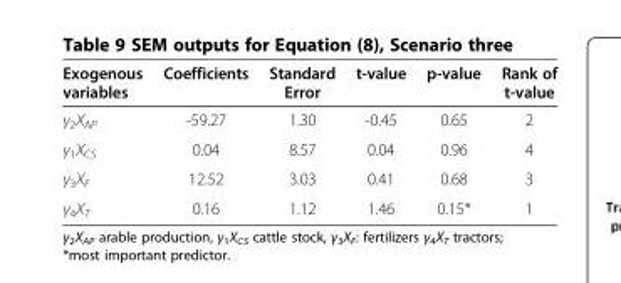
<table><thead><tr><td>Exogenous variables</td><td>Coefficients</td><td>Standard Error</td><td>t-value</td><td>p-value</td><td>Rank of t-value</td></tr></thead><tbody><tr><td>γ<sub>2</sub>X<sub>AP</sub></td><td>-59.27</td><td>1.30</td><td>-0.45</td><td>0.65</td><td>2</td></tr><tr><td>γ<sub>1</sub>X<sub>CS</sub></td><td>0.04</td><td>8.57</td><td>0.04</td><td>0.96</td><td>4</td></tr><tr><td>γ<sub>3</sub>X<sub>F</sub></td><td>12.52</td><td>3.03</td><td>0.41</td><td>0.68</td><td>3</td></tr><tr><td>γ<sub>4</sub>X<sub>T</sub></td><td>0.16</td><td>1.12</td><td>1.46</td><td>0.15*</td><td>1</td></tr></tbody></table>